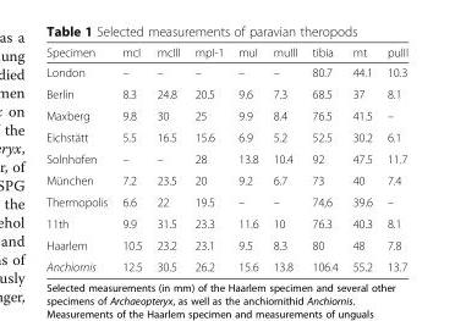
<table><thead><tr><td>Specimen</td><td>mcI</td><td>mcIII</td><td>mpI-1</td><td>muI</td><td>muIII</td><td>tibia</td><td>mt</td><td>puIII</td></tr></thead><tbody><tr><td>London</td><td>–</td><td>–</td><td>–</td><td>–</td><td>–</td><td>80.7</td><td>44.1</td><td>10.3</td></tr><tr><td>Berlin</td><td>8.3</td><td>24.8</td><td>20.5</td><td>9.6</td><td>7.3</td><td>68.5</td><td>37</td><td>8.1</td></tr><tr><td>Maxberg</td><td>9.8</td><td>30</td><td>25</td><td>9.9</td><td>8.4</td><td>76.5</td><td>41.5</td><td>–</td></tr><tr><td>Eichstätt</td><td>5.5</td><td>16.5</td><td>15.6</td><td>6.9</td><td>5.2</td><td>52.5</td><td>30.2</td><td>6.1</td></tr><tr><td>Solnhofen</td><td>–</td><td>–</td><td>28</td><td>13.8</td><td>10.4</td><td>92</td><td>47.5</td><td>11.7</td></tr><tr><td>München</td><td>7.2</td><td>23.5</td><td>20</td><td>9.2</td><td>6.7</td><td>73</td><td>40</td><td>7.4</td></tr><tr><td>Thermopolis</td><td>6.6</td><td>22</td><td>19.5</td><td>–</td><td>–</td><td>74,6</td><td>39.6</td><td>–</td></tr><tr><td>11th</td><td>9.9</td><td>31.5</td><td>23.3</td><td>11.6</td><td>10</td><td>76.3</td><td>40.3</td><td>8.1</td></tr><tr><td>Haarlem</td><td>10.5</td><td>23.2</td><td>23.1</td><td>9.5</td><td>8.3</td><td>80</td><td>48</td><td>7.8</td></tr><tr><td>Anchiornis</td><td>12.5</td><td>30.5</td><td>26.2</td><td>15.6</td><td>13.8</td><td>106.4</td><td>55.2</td><td>13.7</td></tr></tbody></table>